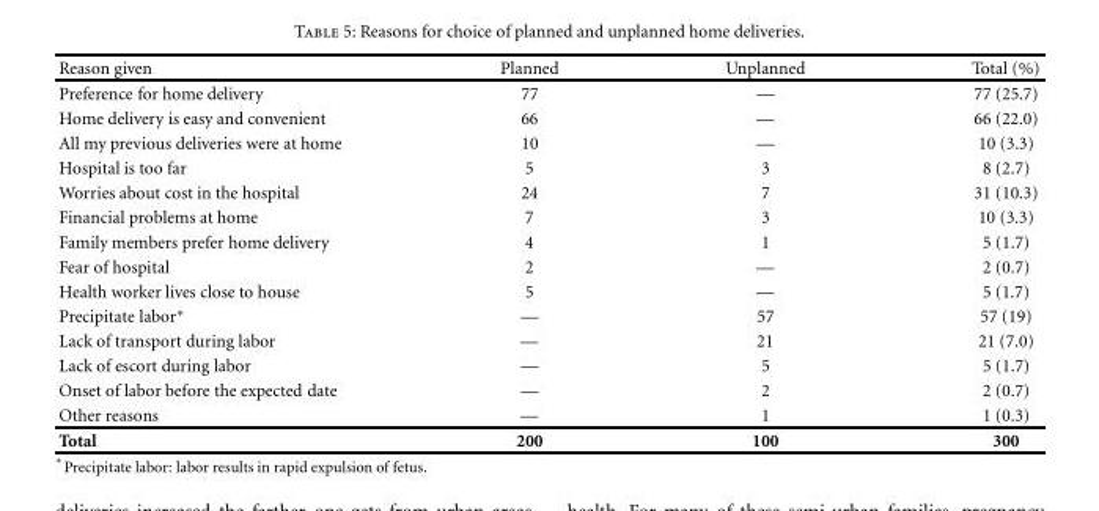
<table><thead><tr><td>Reason given</td><td>Planned</td><td>Unplanned</td><td>Total (%)</td></tr></thead><tbody><tr><td>Preference for home delivery</td><td>77</td><td>—</td><td>77 (25.7)</td></tr><tr><td>Home delivery is easy and convenient</td><td>66</td><td>—</td><td>66 (22.0)</td></tr><tr><td>All my previous deliveries were at home</td><td>10</td><td>—</td><td>10 (3.3)</td></tr><tr><td>Hospital is too far</td><td>5</td><td>3</td><td>8 (2.7)</td></tr><tr><td>Worries about cost in the hospital</td><td>24</td><td>7</td><td>31 (10.3)</td></tr><tr><td>Financial problems at home</td><td>7</td><td>3</td><td>10 (3.3)</td></tr><tr><td>Family members prefer home delivery</td><td>4</td><td>1</td><td>5 (1.7)</td></tr><tr><td>Fear of hospital</td><td>2</td><td>—</td><td>2 (0.7)</td></tr><tr><td>Health worker lives close to house</td><td>5</td><td>—</td><td>5 (1.7)</td></tr><tr><td>Precipitate labor∗</td><td>—</td><td>57</td><td>57 (19)</td></tr><tr><td>Lack of transport during labor</td><td>—</td><td>21</td><td>21 (7.0)</td></tr><tr><td>Lack of escort during labor</td><td>—</td><td>5</td><td>5 (1.7)</td></tr><tr><td>Onset of labor before the expected date</td><td>—</td><td>2</td><td>2 (0.7)</td></tr><tr><td>Other reasons</td><td>—</td><td>1</td><td>1 (0.3)</td></tr><tr><td>Total</td><td>200</td><td>100</td><td>300</td></tr></tbody></table>